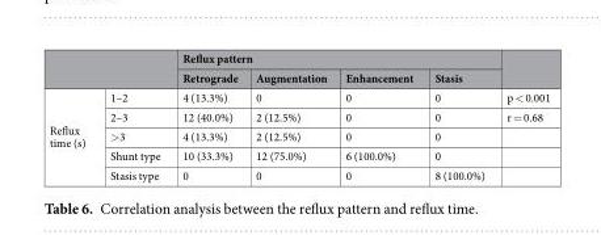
<table><thead><tr><td rowspan="2"></td><td rowspan="2"></td><td colspan="4">Reflux pattern</td><td rowspan="2"></td></tr><tr><td>Retrograde</td><td>Augmentation</td><td>Enhancement</td><td>Stasis</td></tr></thead><tbody><tr><td rowspan="5">Reflux time (s)</td><td>1–2</td><td>4 (13.3%)</td><td>0</td><td>0</td><td>0</td><td>p &lt; 0.001</td></tr><tr><td>2–3</td><td>12 (40.0%)</td><td>2 (12.5%)</td><td>0</td><td>0</td><td>r = 0.68</td></tr><tr><td>&gt;3</td><td>4 (13.3%)</td><td>2 (12.5%)</td><td>0</td><td>0</td><td></td></tr><tr><td>Shunt type</td><td>10 (33.3%)</td><td>12 (75.0%)</td><td>6 (100.0%)</td><td>0</td><td></td></tr><tr><td>Stasis type</td><td>0</td><td>0</td><td>0</td><td>8 (100.0%)</td><td></td></tr></tbody></table>